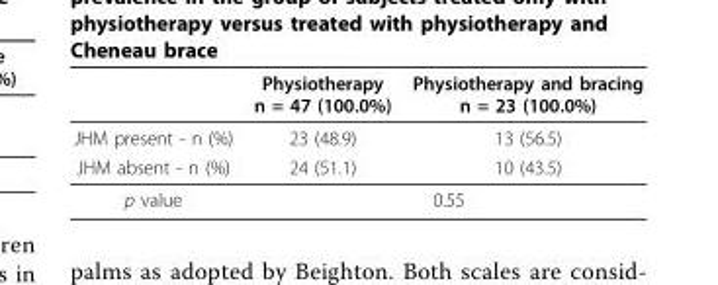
<table><thead><tr><td></td><td>Physiotherapy n = 47 (100.0%)</td><td>Physiotherapy and bracing n = 23 (100.0%)</td></tr></thead><tbody><tr><td>JHM present - n (%)</td><td>23 (48.9)</td><td>13 (56.5)</td></tr><tr><td>JHM absent - n (%)</td><td>24 (51.1)</td><td>10 (43.5)</td></tr><tr><td>p value</td><td colspan="2">0.55</td></tr></tbody></table>